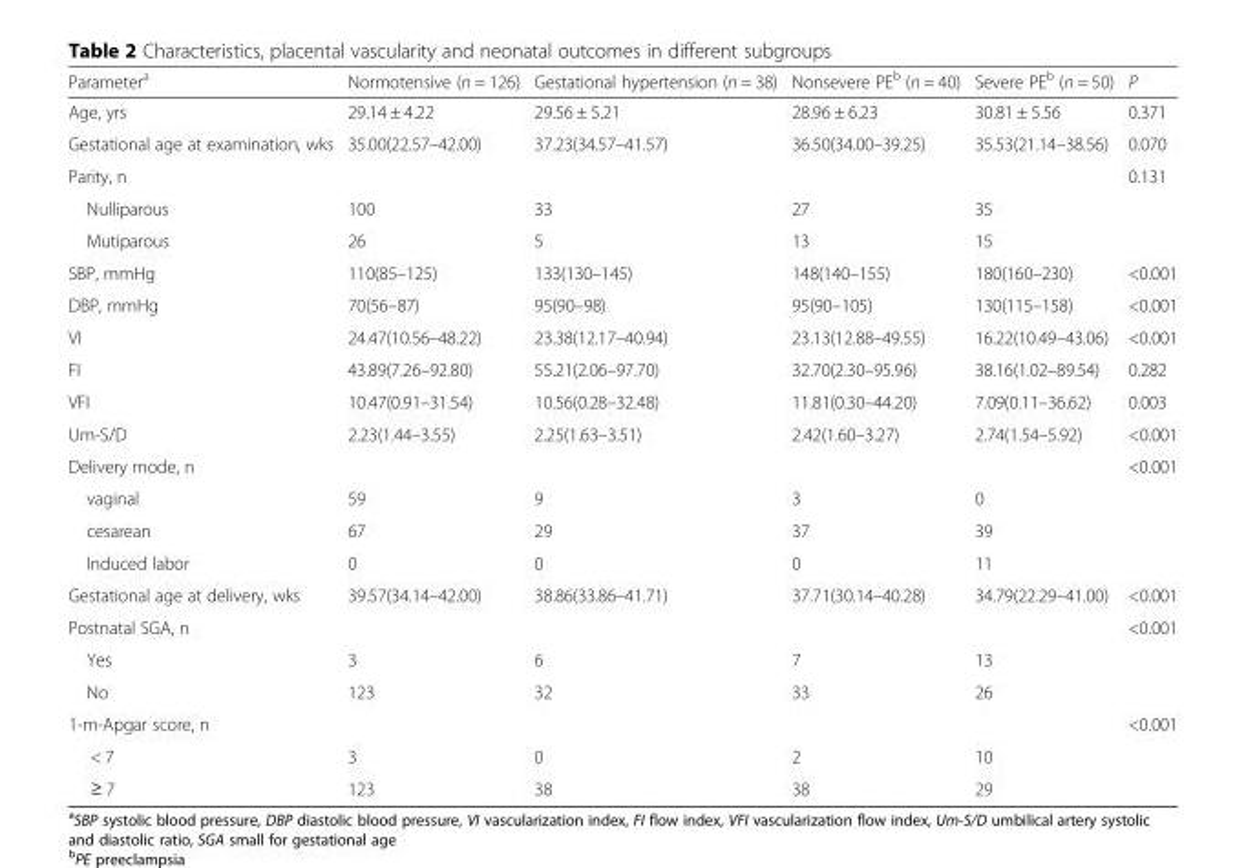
<table><thead><tr><td>Parameter<sup>a</sup></td><td>Normotensive (n = 126)</td><td>Gestational hypertension (n = 38)</td><td>Nonsevere PE<sup>b</sup> (n = 40)</td><td>Severe PE<sup>b</sup> (n = 50)</td><td>P</td></tr></thead><tbody><tr><td>Age, yrs</td><td>29.14 ± 4.22</td><td>29.56 ± 5.21</td><td>28.96 ± 6.23</td><td>30.81 ± 5.56</td><td>0.371</td></tr><tr><td>Gestational age at examination, wks</td><td>35.00(22.57–42.00)</td><td>37.23(34.57–41.57)</td><td>36.50(34.00–39.25)</td><td>35.53(21.14–38.56)</td><td>0.070</td></tr><tr><td>Parity, n</td><td></td><td></td><td></td><td></td><td>0.131</td></tr><tr><td>Nulliparous</td><td>100</td><td>33</td><td>27</td><td>35</td><td></td></tr><tr><td>Mutiparous</td><td>26</td><td>5</td><td>13</td><td>15</td><td></td></tr><tr><td>SBP, mmHg</td><td>110(85–125)</td><td>133(130–145)</td><td>148(140–155)</td><td>180(160–230)</td><td>&lt;0.001</td></tr><tr><td>DBP, mmHg</td><td>70(56–87)</td><td>95(90–98)</td><td>95(90–105)</td><td>130(115–158)</td><td>&lt;0.001</td></tr><tr><td>VI</td><td>24.47(10.56–48.22)</td><td>23.38(12.17–40.94)</td><td>23.13(12.88–49.55)</td><td>16.22(10.49–43.06)</td><td>&lt;0.001</td></tr><tr><td>FI</td><td>43.89(7.26–92.80)</td><td>55.21(2.06–97.70)</td><td>32.70(2.30–95.96)</td><td>38.16(1.02–89.54)</td><td>0.282</td></tr><tr><td>VFI</td><td>10.47(0.91–31.54)</td><td>10.56(0.28–32.48)</td><td>11.81(0.30–44.20)</td><td>7.09(0.11–36.62)</td><td>0.003</td></tr><tr><td>Um-S/D</td><td>2.23(1.44–3.55)</td><td>2.25(1.63–3.51)</td><td>2.42(1.60–3.27)</td><td>2.74(1.54–5.92)</td><td>&lt;0.001</td></tr><tr><td>Delivery mode, n</td><td></td><td></td><td></td><td></td><td>&lt;0.001</td></tr><tr><td>vaginal</td><td>59</td><td>9</td><td>3</td><td>0</td><td></td></tr><tr><td>cesarean</td><td>67</td><td>29</td><td>37</td><td>39</td><td></td></tr><tr><td>Induced labor</td><td>0</td><td>0</td><td>0</td><td>11</td><td></td></tr><tr><td>Gestational age at delivery, wks</td><td>39.57(34.14–42.00)</td><td>38.86(33.86–41.71)</td><td>37.71(30.14–40.28)</td><td>34.79(22.29–41.00)</td><td>&lt;0.001</td></tr><tr><td>Postnatal SGA, n</td><td></td><td></td><td></td><td></td><td>&lt;0.001</td></tr><tr><td>Yes</td><td>3</td><td>6</td><td>7</td><td>13</td><td></td></tr><tr><td>No</td><td>123</td><td>32</td><td>33</td><td>26</td><td></td></tr><tr><td>1-m-Apgar score, n</td><td></td><td></td><td></td><td></td><td>&lt;0.001</td></tr><tr><td>&lt; 7</td><td>3</td><td>0</td><td>2</td><td>10</td><td></td></tr><tr><td>≥ 7</td><td>123</td><td>38</td><td>38</td><td>29</td><td></td></tr></tbody></table>